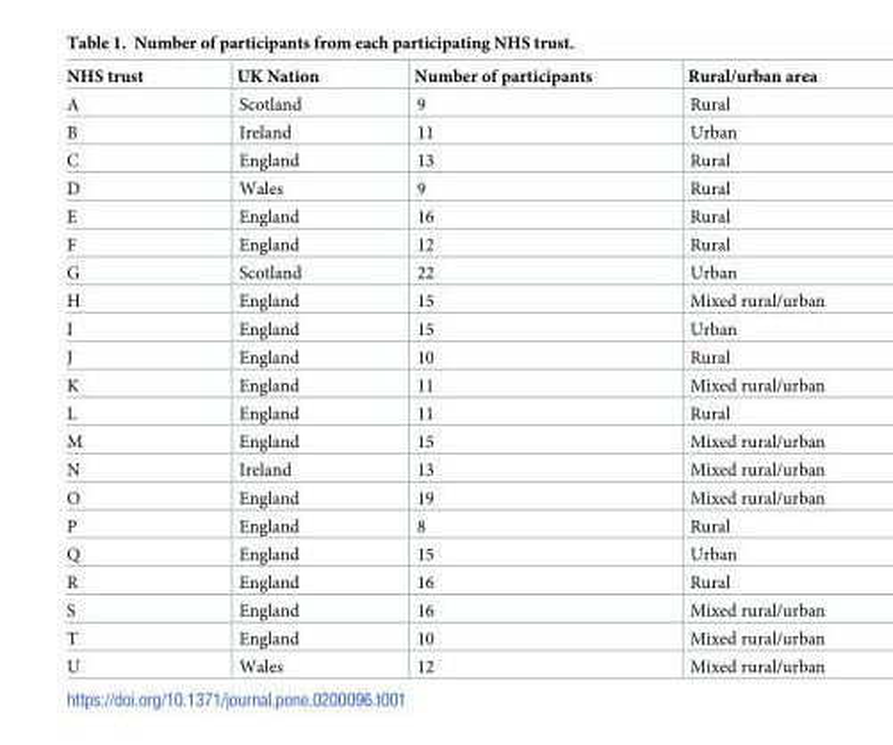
<table><thead><tr><td>NHS trust</td><td>UK Nation</td><td>Number of participants</td><td>Rural/urban area</td></tr></thead><tbody><tr><td>A</td><td>Scotland</td><td>9</td><td>Rural</td></tr><tr><td>B</td><td>Ireland</td><td>11</td><td>Urban</td></tr><tr><td>C</td><td>England</td><td>13</td><td>Rural</td></tr><tr><td>D</td><td>Wales</td><td>9</td><td>Rural</td></tr><tr><td>E</td><td>England</td><td>16</td><td>Rural</td></tr><tr><td>F</td><td>England</td><td>12</td><td>Rural</td></tr><tr><td>G</td><td>Scotland</td><td>22</td><td>Urban</td></tr><tr><td>H</td><td>England</td><td>15</td><td>Mixed rural/urban</td></tr><tr><td>I</td><td>England</td><td>15</td><td>Urban</td></tr><tr><td>J</td><td>England</td><td>10</td><td>Rural</td></tr><tr><td>K</td><td>England</td><td>11</td><td>Mixed rural/urban</td></tr><tr><td>L</td><td>England</td><td>11</td><td>Rural</td></tr><tr><td>M</td><td>England</td><td>15</td><td>Mixed rural/urban</td></tr><tr><td>N</td><td>Ireland</td><td>13</td><td>Mixed rural/urban</td></tr><tr><td>O</td><td>England</td><td>19</td><td>Mixed rural/urban</td></tr><tr><td>P</td><td>England</td><td>8</td><td>Rural</td></tr><tr><td>Q</td><td>England</td><td>15</td><td>Urban</td></tr><tr><td>R</td><td>England</td><td>16</td><td>Rural</td></tr><tr><td>S</td><td>England</td><td>16</td><td>Mixed rural/urban</td></tr><tr><td>T</td><td>England</td><td>10</td><td>Mixed rural/urban</td></tr><tr><td>U</td><td>Wales</td><td>12</td><td>Mixed rural/urban</td></tr></tbody></table>